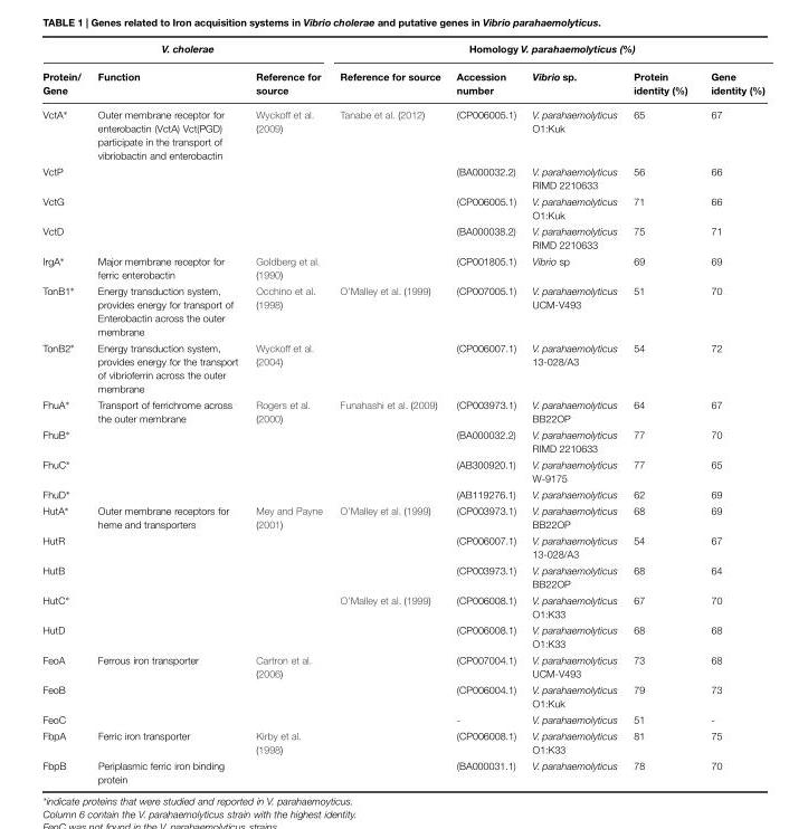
<table><thead><tr><td colspan="3">V. cholerae</td><td colspan="5">Homology V. parahaemolyticus (%)</td></tr><tr><td>Protein/ Gene</td><td>Function</td><td>Reference for source</td><td>Reference for source</td><td>Accession number</td><td>Vibrio sp.</td><td>Protein identity (%)</td><td>Gene identity (%)</td></tr></thead><tbody><tr><td>VctA∗</td><td>Outer membrane receptor for enterobactin (VctA) Vct(PGD) participate in the transport of vibriobactin and enterobactin</td><td>Wyckoff et al. (2009)</td><td>Tanabe et al. (2012)</td><td>(CP006005.1)</td><td>V. parahaemolyticus O1:Kuk</td><td>65</td><td>67</td></tr><tr><td>VctP</td><td></td><td></td><td></td><td>(BA000032.2)</td><td>V. parahaemolyticus RIMD 2210633</td><td>56</td><td>66</td></tr><tr><td>VctG</td><td></td><td></td><td></td><td>(CP006005.1)</td><td>V. parahaemolyticus O1:Kuk</td><td>71</td><td>66</td></tr><tr><td>VctD</td><td></td><td></td><td></td><td>(BA000038.2)</td><td>V. parahaemolyticus RIMD 2210633</td><td>75</td><td>71</td></tr><tr><td>IrgA∗</td><td>Major membrane receptor for ferric enterobactin</td><td>Goldberg et al. (1990)</td><td></td><td>(CP001805.1)</td><td>Vibrio sp</td><td>69</td><td>69</td></tr><tr><td>TonB1∗</td><td>Energy transduction system, provides energy for transport of Enterobactin across the outer membrane</td><td>Occhino et al. (1998)</td><td>O’Malley et al. (1999)</td><td>(CP007005.1)</td><td>V. parahaemolyticus UCM-V493</td><td>51</td><td>70</td></tr><tr><td>TonB2∗</td><td>Energy transduction system, provides energy for the transport of vibrioferrin across the outer membrane</td><td>Wyckoff et al. (2004)</td><td></td><td>(CP006007.1)</td><td>V. parahaemolyticus 13-028/A3</td><td>54</td><td>72</td></tr><tr><td>FhuA∗</td><td>Transport of ferrichrome across the outer membrane</td><td>Rogers et al. (2000)</td><td>Funahashi et al. (2009)</td><td>(CP003973.1)</td><td>V. parahaemolyticus BB22OP</td><td>64</td><td>67</td></tr><tr><td>FhuB∗</td><td></td><td></td><td></td><td>(BA000032.2)</td><td>V. parahaemolyticus RIMD 2210633</td><td>77</td><td>70</td></tr><tr><td>FhuC∗</td><td></td><td></td><td></td><td>(AB300920.1)</td><td>V. parahaemolyticus W-9175</td><td>77</td><td>65</td></tr><tr><td>FhuD∗</td><td></td><td></td><td></td><td>(AB119276.1)</td><td>V. parahaemolyticus</td><td>62</td><td>69</td></tr><tr><td>HutA∗</td><td>Outer membrane receptors for heme and transporters</td><td>Mey and Payne (2001)</td><td>O’Malley et al. (1999)</td><td>(CP003973.1)</td><td>V. parahaemolyticus BB22OP</td><td>68</td><td>69</td></tr><tr><td>HutR</td><td></td><td></td><td></td><td>(CP006007.1)</td><td>V. parahaemolyticus 13-028/A3</td><td>54</td><td>67</td></tr><tr><td>HutB</td><td></td><td></td><td></td><td>(CP003973.1)</td><td>V. parahaemolyticus BB22OP</td><td>68</td><td>64</td></tr><tr><td>HutC∗</td><td></td><td></td><td>O’Malley et al. (1999)</td><td>(CP006008.1)</td><td>V. parahaemolyticus O1:K33</td><td>67</td><td>70</td></tr><tr><td>HutD</td><td></td><td></td><td></td><td>(CP006008.1)</td><td>V. parahaemolyticus O1:K33</td><td>68</td><td>68</td></tr><tr><td>FeoA</td><td>Ferrous iron transporter</td><td>Cartron et al. (2006)</td><td></td><td>(CP007004.1)</td><td>V. parahaemolyticus UCM-V493</td><td>73</td><td>68</td></tr><tr><td>FeoB</td><td></td><td></td><td></td><td>(CP006004.1)</td><td>V. parahaemolyticus O1:Kuk</td><td>79</td><td>73</td></tr><tr><td>FeoC</td><td></td><td></td><td></td><td>-</td><td>V. parahaemolyticus</td><td>51</td><td>-</td></tr><tr><td>FbpA</td><td>Ferric iron transporter</td><td>Kirby et al. (1998)</td><td></td><td>(CP006008.1)</td><td>V. parahaemolyticus O1:K33</td><td>81</td><td>75</td></tr><tr><td>FbpB</td><td>Periplasmic ferric iron binding protein</td><td></td><td></td><td>(BA000031.1)</td><td>V. parahaemolyticus</td><td>78</td><td>70</td></tr></tbody></table>